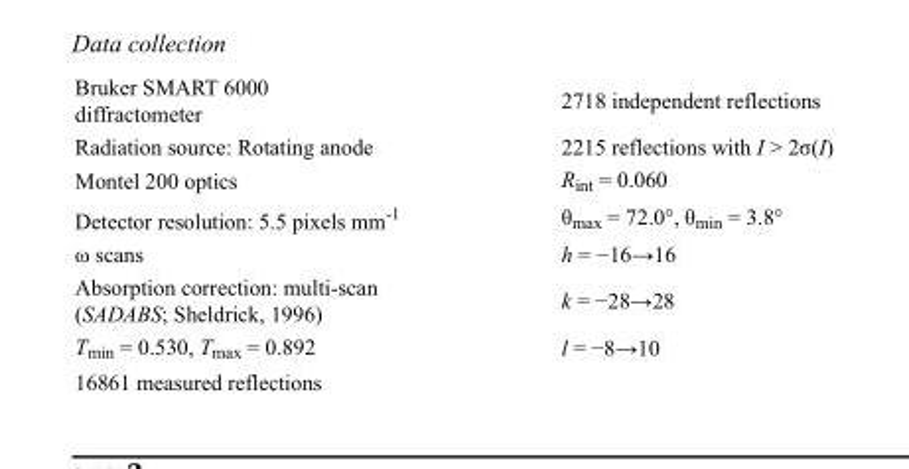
<table><tbody><tr><td>Bruker SMART 6000 diffractometer</td><td>2718 independent reflections</td></tr><tr><td>Radiation source: Rotating anode</td><td>2215 reflections with I &gt; 2σ(I)</td></tr><tr><td>Montel 200 optics</td><td>R<sub>int</sub> = 0.060</td></tr><tr><td>Detector resolution: 5.5 pixels mm<sup>-1</sup></td><td>θ<sub>max</sub> = 72.0°, θ<sub>min</sub> = 3.8°</td></tr><tr><td>ω scans</td><td>h = −16→16</td></tr><tr><td>Absorption correction: multi-scan (SADABS; Sheldrick, 1996)</td><td>k = −28→28</td></tr><tr><td>T<sub>min</sub> = 0.530, T<sub>max</sub> = 0.892</td><td>l = −8→10</td></tr><tr><td>16861 measured reflections</td><td></td></tr></tbody></table>